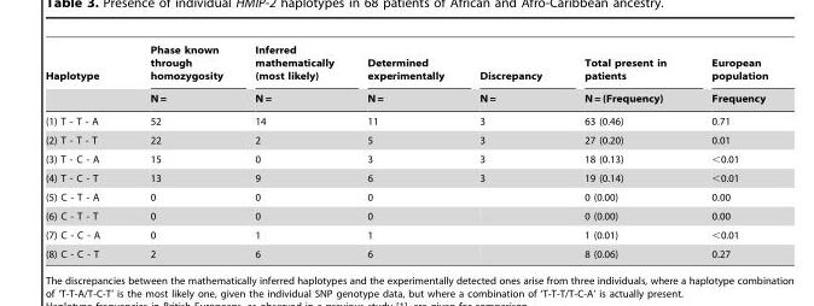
<table><thead><tr><td rowspan="2">Haplotype</td><td rowspan="2">Phase known through homozygosity N =</td><td rowspan="2">Inferred mathematically (most likely) N =</td><td rowspan="2">Determined experimentally N =</td><td rowspan="2">Discrepancy N =</td><td rowspan="2">Total present in patients N = (Frequency)</td><td rowspan="2">European population Frequency</td></tr><tr></tr></thead><tbody><tr><td>(1) T - T - A</td><td>52</td><td>14</td><td>11</td><td>3</td><td>63 (0.46)</td><td>0.71</td></tr><tr><td>(2) T - T - T</td><td>22</td><td>2</td><td>5</td><td>3</td><td>27 (0.20)</td><td>0.01</td></tr><tr><td>(3) T - C - A</td><td>15</td><td>0</td><td>3</td><td>3</td><td>18 (0.13)</td><td>&lt;0.01</td></tr><tr><td>(4) T - C - T</td><td>13</td><td>9</td><td>6</td><td>3</td><td>19 (0.14)</td><td>&lt;0.01</td></tr><tr><td>(5) C - T - A</td><td>0</td><td>0</td><td>0</td><td></td><td>0 (0.00)</td><td>0.00</td></tr><tr><td>(6) C - T - T</td><td>0</td><td>0</td><td>0</td><td></td><td>0 (0.00)</td><td>0.00</td></tr><tr><td>(7) C - C - A</td><td>0</td><td>1</td><td>1</td><td></td><td>1 (0.01)</td><td>&lt;0.01</td></tr><tr><td>(8) C - C - T</td><td>2</td><td>6</td><td>6</td><td></td><td>8 (0.06)</td><td>0.27</td></tr></tbody></table>